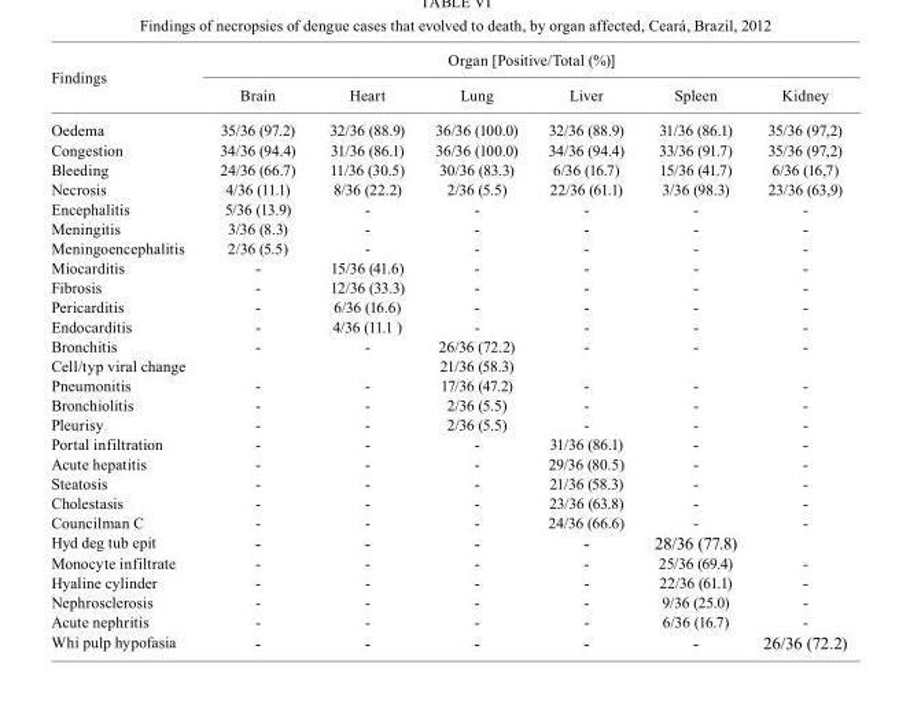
<table><tbody><tr><td rowspan="2">Findings</td><td colspan="6">Organ [Positive/Total (%)]</td></tr><tr><td>Brain</td><td>Heart</td><td>Lung</td><td>Liver</td><td>Spleen</td><td>Kidney</td></tr><tr><td>Oedema</td><td>35/36 (97.2)</td><td>32/36 (88.9)</td><td>36/36 (100.0)</td><td>32/36 (88.9)</td><td>31/36 (86.1)</td><td>35/36 (97,2)</td></tr><tr><td>Congestion</td><td>34/36 (94.4)</td><td>31/36 (86.1)</td><td>36/36 (100.0)</td><td>34/36 (94.4)</td><td>33/36 (91.7)</td><td>35/36 (97,2)</td></tr><tr><td>Bleeding</td><td>24/36 (66.7)</td><td>11/36 (30.5)</td><td>30/36 (83.3)</td><td>6/36 (16.7)</td><td>15/36 (41.7)</td><td>6/36 (16,7)</td></tr><tr><td>Necrosis</td><td>4/36 (11.1)</td><td>8/36 (22.2)</td><td>2/36 (5.5)</td><td>22/36 (61.1)</td><td>3/36 (98.3)</td><td>23/36 (63,9)</td></tr><tr><td>Encephalitis</td><td>5/36 (13.9)</td><td>-</td><td>-</td><td>-</td><td>-</td><td>-</td></tr><tr><td>Meningitis</td><td>3/36 (8.3)</td><td>-</td><td>-</td><td>-</td><td>-</td><td>-</td></tr><tr><td>Meningoencephalitis</td><td>2/36 (5.5)</td><td>-</td><td>-</td><td>-</td><td>-</td><td>-</td></tr><tr><td>Miocarditis</td><td>-</td><td>15/36 (41.6)</td><td>-</td><td>-</td><td>-</td><td>-</td></tr><tr><td>Fibrosis</td><td>-</td><td>12/36 (33.3)</td><td>-</td><td>-</td><td>-</td><td>-</td></tr><tr><td>Pericarditis</td><td>-</td><td>6/36 (16.6)</td><td>-</td><td>-</td><td>-</td><td>-</td></tr><tr><td>Endocarditis</td><td>-</td><td>4/36 (11.1 )</td><td>-</td><td>-</td><td>-</td><td>-</td></tr><tr><td>Bronchitis</td><td>-</td><td>-</td><td>26/36 (72.2)</td><td>-</td><td>-</td><td>-</td></tr><tr><td>Cell/typ viral change</td><td></td><td></td><td>21/36 (58.3)</td><td></td><td></td><td></td></tr><tr><td>Pneumonitis</td><td>-</td><td>-</td><td>17/36 (47.2)</td><td>-</td><td>-</td><td>-</td></tr><tr><td>Bronchiolitis</td><td>-</td><td>-</td><td>2/36 (5.5)</td><td>-</td><td>-</td><td>-</td></tr><tr><td>Pleurisy</td><td>-</td><td>-</td><td>2/36 (5.5)</td><td>-</td><td>-</td><td>-</td></tr><tr><td>Portal infiltration</td><td>-</td><td>-</td><td>-</td><td>31/36 (86.1)</td><td>-</td><td>-</td></tr><tr><td>Acute hepatitis</td><td>-</td><td>-</td><td>-</td><td>29/36 (80.5)</td><td>-</td><td>-</td></tr><tr><td>Steatosis</td><td>-</td><td>-</td><td>-</td><td>21/36 (58.3)</td><td>-</td><td>-</td></tr><tr><td>Cholestasis</td><td>-</td><td>-</td><td>-</td><td>23/36 (63.8)</td><td>-</td><td>-</td></tr><tr><td>Councilman C</td><td>-</td><td>-</td><td>-</td><td>24/36 (66.6)</td><td>-</td><td>-</td></tr><tr><td>Hyd deg tub epit</td><td>-</td><td>-</td><td>-</td><td>-</td><td>28/36 (77.8)</td><td></td></tr><tr><td>Monocyte infiltrate</td><td>-</td><td>-</td><td>-</td><td>-</td><td>25/36 (69.4)</td><td>-</td></tr><tr><td>Hyaline cylinder</td><td>-</td><td>-</td><td>-</td><td>-</td><td>22/36 (61.1)</td><td>-</td></tr><tr><td>Nephrosclerosis</td><td>-</td><td>-</td><td>-</td><td>-</td><td>9/36 (25.0)</td><td>-</td></tr><tr><td>Acute nephritis</td><td>-</td><td>-</td><td>-</td><td>-</td><td>6/36 (16.7)</td><td>-</td></tr><tr><td>Whi pulp hypofasia</td><td>-</td><td>-</td><td>-</td><td>-</td><td>-</td><td>26/36 (72.2)</td></tr></tbody></table>